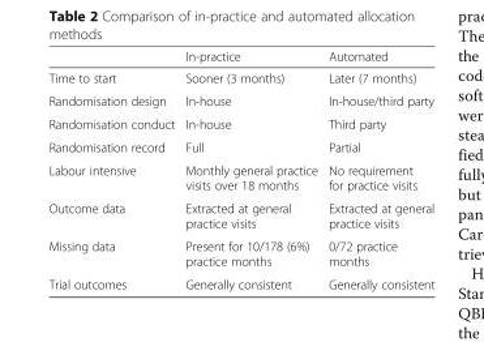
<table><thead><tr><td></td><td>In-practice</td><td>Automated</td></tr></thead><tbody><tr><td>Time to start</td><td>Sooner (3 months)</td><td>Later (7 months)</td></tr><tr><td>Randomisation design</td><td>In-house</td><td>In-house/third party</td></tr><tr><td>Randomisation conduct</td><td>In-house</td><td>Third party</td></tr><tr><td>Randomisation record</td><td>Full</td><td>Partial</td></tr><tr><td>Labour intensive</td><td>Monthly general practice visits over 18 months</td><td>No requirement for practice visits</td></tr><tr><td>Outcome data</td><td>Extracted at general practice visits</td><td>Extracted at general practice visits</td></tr><tr><td>Missing data</td><td>Present for 10/178 (6%) practice months</td><td>0/72 practice months</td></tr><tr><td>Trial outcomes</td><td>Generally consistent</td><td>Generally consistent</td></tr></tbody></table>